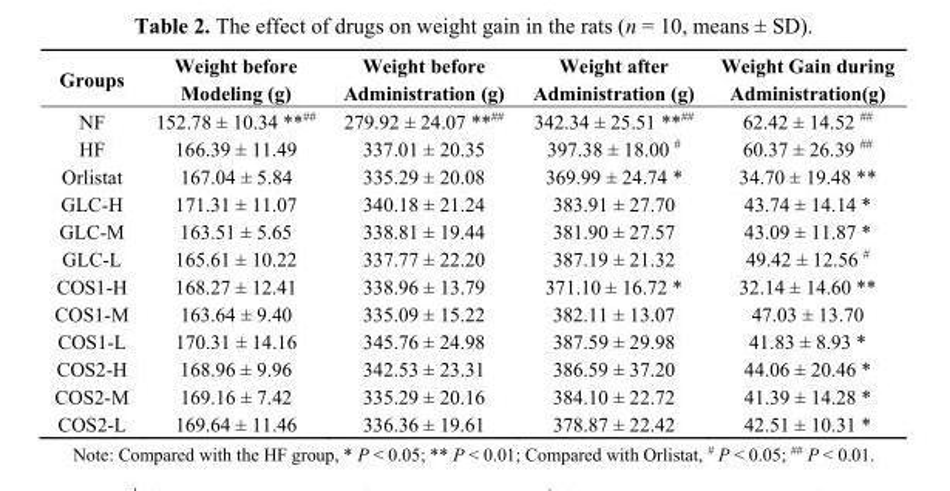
<table><thead><tr><td>Groups</td><td>Weight before Modeling (g)</td><td>Weight before Administration (g)</td><td>Weight after Administration (g)</td><td>Weight Gain during Administration(g)</td></tr></thead><tbody><tr><td>NF</td><td>152.78 ± 10.34 **<sup>##</sup></td><td>279.92 ± 24.07 **<sup>##</sup></td><td>342.34 ± 25.51 **<sup>##</sup></td><td>62.42 ± 14.52 <sup>##</sup></td></tr><tr><td>HF</td><td>166.39 ± 11.49</td><td>337.01 ± 20.35</td><td>397.38 ± 18.00 <sup>#</sup></td><td>60.37 ± 26.39 <sup>##</sup></td></tr><tr><td>Orlistat</td><td>167.04 ± 5.84</td><td>335.29 ± 20.08</td><td>369.99 ± 24.74 *</td><td>34.70 ± 19.48 **</td></tr><tr><td>GLC-H</td><td>171.31 ± 11.07</td><td>340.18 ± 21.24</td><td>383.91 ± 27.70</td><td>43.74 ± 14.14 *</td></tr><tr><td>GLC-M</td><td>163.51 ± 5.65</td><td>338.81 ± 19.44</td><td>381.90 ± 27.57</td><td>43.09 ± 11.87 *</td></tr><tr><td>GLC-L</td><td>165.61 ± 10.22</td><td>337.77 ± 22.20</td><td>387.19 ± 21.32</td><td>49.42 ± 12.56 <sup>#</sup></td></tr><tr><td>COS1-H</td><td>168.27 ± 12.41</td><td>338.96 ± 13.79</td><td>371.10 ± 16.72 *</td><td>32.14 ± 14.60 **</td></tr><tr><td>COS1-M</td><td>163.64 ± 9.40</td><td>335.09 ± 15.22</td><td>382.11 ± 13.07</td><td>47.03 ± 13.70</td></tr><tr><td>COS1-L</td><td>170.31 ± 14.16</td><td>345.76 ± 24.98</td><td>387.59 ± 29.98</td><td>41.83 ± 8.93 *</td></tr><tr><td>COS2-H</td><td>168.96 ± 9.96</td><td>342.53 ± 23.31</td><td>386.59 ± 37.20</td><td>44.06 ± 20.46 *</td></tr><tr><td>COS2-M</td><td>169.16 ± 7.42</td><td>335.29 ± 20.16</td><td>384.10 ± 22.72</td><td>41.39 ± 14.28 *</td></tr><tr><td>COS2-L</td><td>169.64 ± 11.46</td><td>336.36 ± 19.61</td><td>378.87 ± 22.42</td><td>42.51 ± 10.31 *</td></tr></tbody></table>